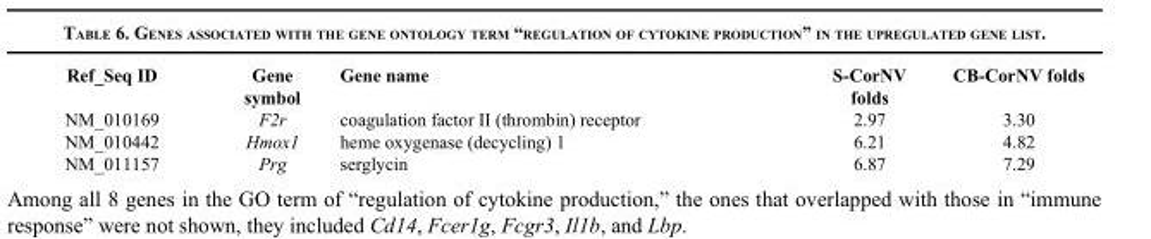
<table><thead><tr><td>Ref_Seq ID</td><td>Gene symbol</td><td>Gene name</td><td>S-CorNV folds</td><td>CB-CorNV folds</td></tr></thead><tbody><tr><td>NM_010169</td><td>F2r</td><td>coagulation factor II (thrombin) receptor</td><td>2.97</td><td>3.30</td></tr><tr><td>NM_010442</td><td>Hmox1</td><td>heme oxygenase (decycling) 1</td><td>6.21</td><td>4.82</td></tr><tr><td>NM_011157</td><td>Prg</td><td>serglycin</td><td>6.87</td><td>7.29</td></tr></tbody></table>